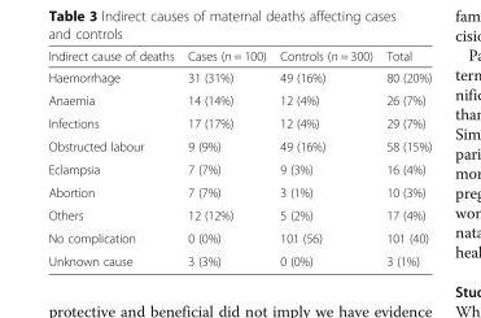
<table><thead><tr><td>Indirect cause of deaths</td><td>Cases (n = 100)</td><td>Controls (n = 300)</td><td>Total</td></tr></thead><tbody><tr><td>Haemorrhage</td><td>31 (31%)</td><td>49 (16%)</td><td>80 (20%)</td></tr><tr><td>Anaemia</td><td>14 (14%)</td><td>12 (4%)</td><td>26 (7%)</td></tr><tr><td>Infections</td><td>17 (17%)</td><td>12 (4%)</td><td>29 (7%)</td></tr><tr><td>Obstructed labour</td><td>9 (9%)</td><td>49 (16%)</td><td>58 (15%)</td></tr><tr><td>Eclampsia</td><td>7 (7%)</td><td>9 (3%)</td><td>16 (4%)</td></tr><tr><td>Abortion</td><td>7 (7%)</td><td>3 (1%)</td><td>10 (3%)</td></tr><tr><td>Others</td><td>12 (12%)</td><td>5 (2%)</td><td>17 (4%)</td></tr><tr><td>No complication</td><td>0 (0%)</td><td>101 (56)</td><td>101 (40)</td></tr><tr><td>Unknown cause</td><td>3 (3%)</td><td>0 (0%)</td><td>3 (1%)</td></tr></tbody></table>